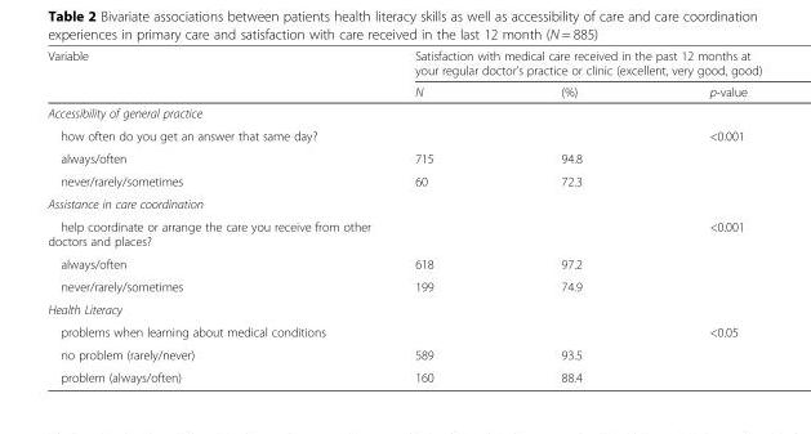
<table><thead><tr><td rowspan="2">Variable</td><td colspan="3">Satisfaction with medical care received in the past 12 months at your regular doctor’s practice or clinic (excellent, very good, good)</td></tr><tr><td>N</td><td>(%)</td><td>p-value</td></tr></thead><tbody><tr><td colspan="4">Accessibility of general practice</td></tr><tr><td>how often do you get an answer that same day?</td><td></td><td></td><td>&lt;0.001</td></tr><tr><td>always/often</td><td>715</td><td>94.8</td><td></td></tr><tr><td>never/rarely/sometimes</td><td>60</td><td>72.3</td><td></td></tr><tr><td colspan="4">Assistance in care coordination</td></tr><tr><td>help coordinate or arrange the care you receive from other doctors and places?</td><td></td><td></td><td>&lt;0.001</td></tr><tr><td>always/often</td><td>618</td><td>97.2</td><td></td></tr><tr><td>never/rarely/sometimes</td><td>199</td><td>74.9</td><td></td></tr><tr><td colspan="4">Health Literacy</td></tr><tr><td>problems when learning about medical conditions</td><td></td><td></td><td>&lt;0.05</td></tr><tr><td>no problem (rarely/never)</td><td>589</td><td>93.5</td><td></td></tr><tr><td>problem (always/often)</td><td>160</td><td>88.4</td><td></td></tr></tbody></table>